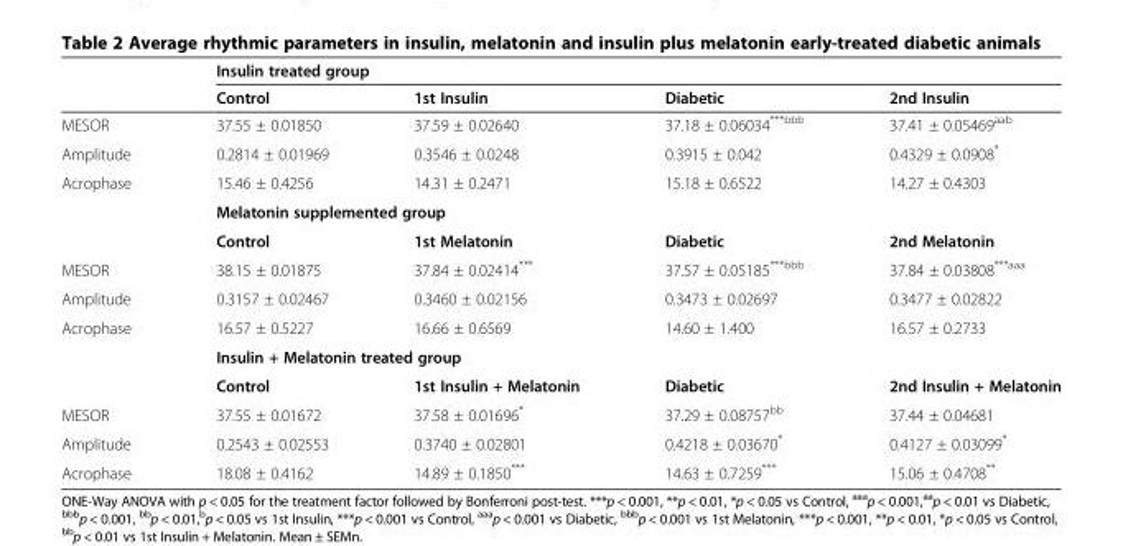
<table><thead><tr><td rowspan="2"></td><td colspan="4">Insulin treated group</td></tr><tr><td>Control</td><td>1st Insulin</td><td>Diabetic</td><td>2nd Insulin</td></tr></thead><tbody><tr><td>MESOR</td><td>37.55 ± 0.01850</td><td>37.59 ± 0.02640</td><td>37.18 ± 0.06034<sup>***bbb</sup></td><td>37.41 ± 0.05469<sup>aab</sup></td></tr><tr><td>Amplitude</td><td>0.2814 ± 0.01969</td><td>0.3546 ± 0.0248</td><td>0.3915 ± 0.042</td><td>0.4329 ± 0.0908*</td></tr><tr><td rowspan="3">Acrophase</td><td>15.46 ± 0.4256</td><td>14.31 ± 0.2471</td><td>15.18 ± 0.6522</td><td>14.27 ± 0.4303</td></tr><tr><td colspan="4">Melatonin supplemented group</td></tr><tr><td>Control</td><td>1st Melatonin</td><td>Diabetic</td><td>2nd Melatonin</td></tr><tr><td>MESOR</td><td>38.15 ± 0.01875</td><td>37.84 ± 0.02414***</td><td>37.57 ± 0.05185<sup>***bbb</sup></td><td>37.84 ± 0.03808<sup>***aaa</sup></td></tr><tr><td>Amplitude</td><td>0.3157 ± 0.02467</td><td>0.3460 ± 0.02156</td><td>0.3473 ± 0.02697</td><td>0.3477 ± 0.02822</td></tr><tr><td rowspan="3">Acrophase</td><td>16.57 ± 0.5227</td><td>16.66 ± 0.6569</td><td>14.60 ± 1.400</td><td>16.57 ± 0.2733</td></tr><tr><td colspan="4">Insulin + Melatonin treated group</td></tr><tr><td>Control</td><td>1st Insulin + Melatonin</td><td>Diabetic</td><td>2nd Insulin + Melatonin</td></tr><tr><td>MESOR</td><td>37.55 ± 0.01672</td><td>37.58 ± 0.01696*</td><td>37.29 ± 0.08757<sup>bb</sup></td><td>37.44 ± 0.04681</td></tr><tr><td>Amplitude</td><td>0.2543 ± 0.02553</td><td>0.3740 ± 0.02801</td><td>0.4218 ± 0.03670*</td><td>0.4127 ± 0.03099*</td></tr><tr><td>Acrophase</td><td>18.08 ± 0.4162</td><td>14.89 ± 0.1850***</td><td>14.63 ± 0.7259***</td><td>15.06 ± 0.4708**</td></tr></tbody></table>